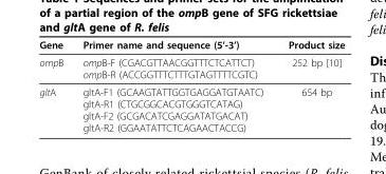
<table><thead><tr><td>Gene</td><td>Primer name and sequence (5’-3’)</td><td>Product size</td></tr></thead><tbody><tr><td>ompB</td><td>ompB-F (CGACGTTAACGGTTTCTCATTCT) ompB-R (ACCGGTTTCTTTGTAGTTTTCGTC)</td><td>252 bp [10]</td></tr><tr><td>gltA</td><td>gltA-F1 (GCAAGTATTGGTGAGGATGTAATC) gltA-R1 (CTGCGGCACGTGGGTCATAG) gltA-F2 (GCGACATCGAGGATATGACAT) gltA-R2 (GGAATATTCTCAGAACTACCG)</td><td>654 bp</td></tr></tbody></table>